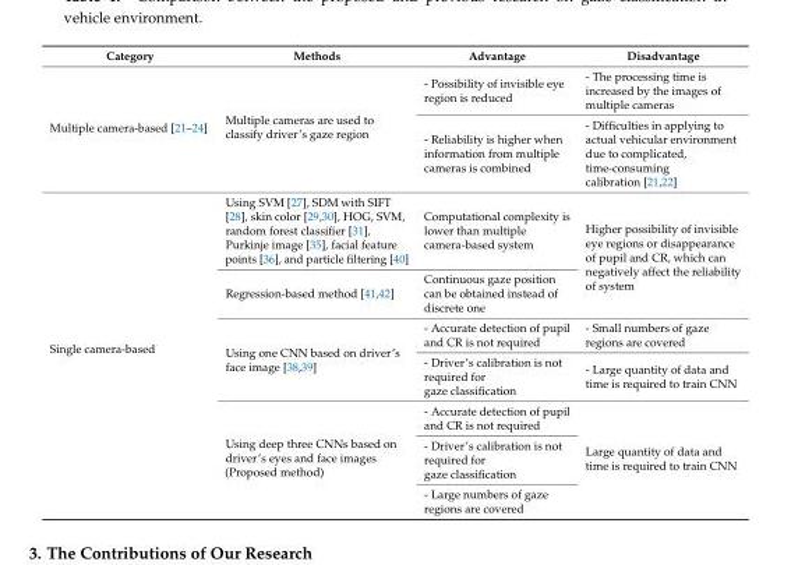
<table><thead><tr><td>Category</td><td>Methods</td><td>Advantage</td><td>Disadvantage</td></tr></thead><tbody><tr><td rowspan="2">Multiple camera-based [21–24]</td><td rowspan="2">Multiple cameras are used to classify driver’s gaze region</td><td>- Possibility of invisible eye region is reduced</td><td>- The processing time is increased by the images of multiple cameras</td></tr><tr><td>- Reliability is higher when information from multiple cameras is combined</td><td>- Difficulties in applying to actual vehicular environment due to complicated, time-consuming calibration [21,22]</td></tr><tr><td rowspan="7">Single camera-based</td><td>Using SVM [27], SDM with SIFT [28], skin color [29,30], HOG, SVM, random forest classifier [31], Purkinje image [35], facial feature points [36], and particle filtering [40]</td><td>Computational complexity is lower than multiple camera-based system</td><td rowspan="2">Higher possibility of invisible eye regions or disappearance of pupil and CR, which can negatively affect the reliability of system</td></tr><tr><td>Regression-based method [41,42]</td><td>Continuous gaze position can be obtained instead of discrete one</td></tr><tr><td rowspan="2">Using one CNN based on driver’s face image [38,39]</td><td>- Accurate detection of pupil and CR is not required</td><td>- Small numbers of gaze regions are covered</td></tr><tr><td>- Driver’s calibration is not required for gaze classification</td><td>- Large quantity of data and time is required to train CNN</td></tr><tr><td rowspan="3">Using deep three CNNs based on driver’s eyes and face images (Proposed method)</td><td>- Accurate detection of pupil and CR is not required</td><td rowspan="3">Large quantity of data and time is required to train CNN</td></tr><tr><td>- Driver’s calibration is not required for gaze classification</td></tr><tr><td>- Large numbers of gaze regions are covered</td></tr></tbody></table>